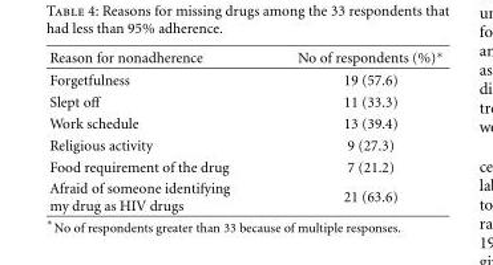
<table><thead><tr><td>Reason for nonadherence</td><td>No of respondents (%)∗</td></tr></thead><tbody><tr><td>Forgetfulness</td><td>19 (57.6)</td></tr><tr><td>Slept off</td><td>11 (33.3)</td></tr><tr><td>Work schedule</td><td>13 (39.4)</td></tr><tr><td>Religious activity</td><td>9 (27.3)</td></tr><tr><td>Food requirement of the drug</td><td>7 (21.2)</td></tr><tr><td>Afraid of someone identifying my drug as HIV drugs</td><td>21 (63.6)</td></tr></tbody></table>